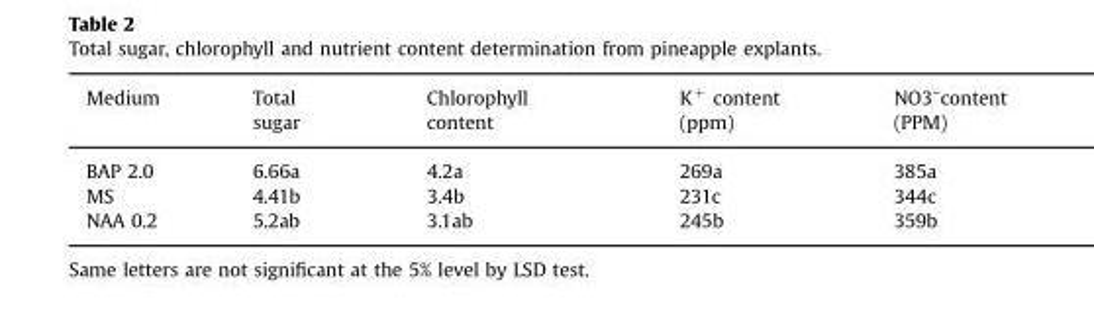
<table><thead><tr><td>Medium</td><td>Total sugar</td><td>Chlorophyll content</td><td>K<sup>+</sup> content (ppm)</td><td>NO3–content (PPM)</td></tr></thead><tbody><tr><td>BAP 2.0</td><td>6.66a</td><td>4.2a</td><td>269a</td><td>385a</td></tr><tr><td>MS</td><td>4.41b</td><td>3.4b</td><td>231c</td><td>344c</td></tr><tr><td>NAA 0.2</td><td>5.2ab</td><td>3.1ab</td><td>245b</td><td>359b</td></tr></tbody></table>